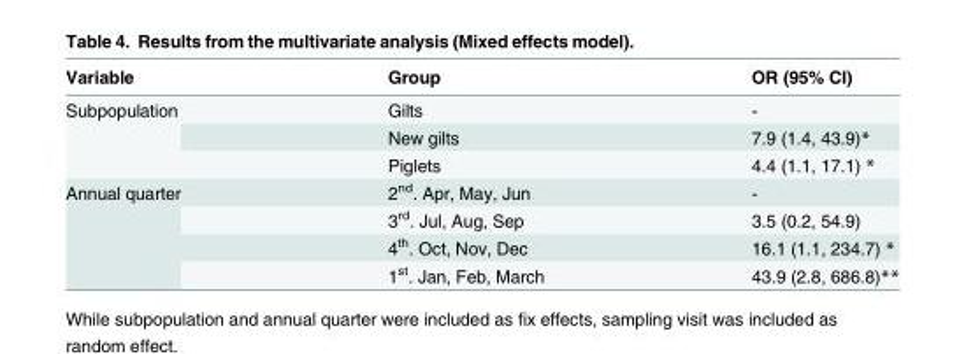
<table><thead><tr><td>Variable</td><td>Group</td><td>OR (95% CI)</td></tr></thead><tbody><tr><td rowspan="3">Subpopulation</td><td>Gilts</td><td>-</td></tr><tr><td>New gilts</td><td>7.9 (1.4, 43.9)*</td></tr><tr><td>Piglets</td><td>4.4 (1.1, 17.1) *</td></tr><tr><td rowspan="4">Annual quarter</td><td>2<sup>nd</sup>. Apr, May, Jun</td><td>-</td></tr><tr><td>3<sup>rd</sup>. Jul, Aug, Sep</td><td>3.5 (0.2, 54.9)</td></tr><tr><td>4<sup>th</sup>. Oct, Nov, Dec</td><td>16.1 (1.1, 234.7) *</td></tr><tr><td>1<sup>st</sup>. Jan, Feb, March</td><td>43.9 (2.8, 686.8)**</td></tr></tbody></table>